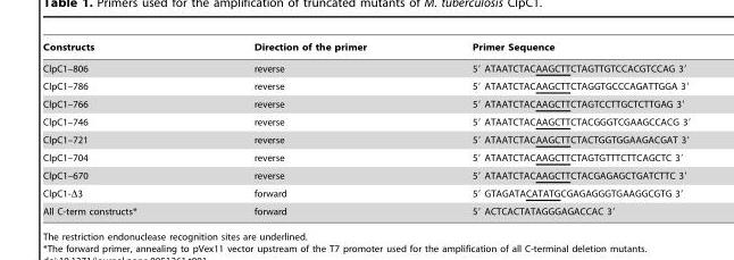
<table><thead><tr><td>Constructs</td><td>Direction of the primer</td><td>Primer Sequence</td></tr></thead><tbody><tr><td>ClpC1–806</td><td>reverse</td><td>5′ ATAATCTACAAGCTTCTAGTTGTCCACGTCCAG 3′</td></tr><tr><td>ClpC1–786</td><td>reverse</td><td>5′ ATAATCTACAAGCTTCTAGGTGCCCAGATTGGA 3′</td></tr><tr><td>ClpC1–766</td><td>reverse</td><td>5′ ATAATCTACAAGCTTCTAGTCCTTGCTCTTGAG 3′</td></tr><tr><td>ClpC1–746</td><td>reverse</td><td>5′ ATAATCTACAAGCTTCTACGGGTCGAAGCCACG 3′</td></tr><tr><td>ClpC1–721</td><td>reverse</td><td>5′ ATAATCTACAAGCTTCTACTGGTGGAAGACGAT 3′</td></tr><tr><td>ClpC1–704</td><td>reverse</td><td>5′ ATAATCTACAAGCTTCTAGTGTTTCTTCAGCTC 3′</td></tr><tr><td>ClpC1–670</td><td>reverse</td><td>5′ ATAATCTACAAGCTTCTACGAGAGCTGATCTTC 3′</td></tr><tr><td>ClpC1-Δ3</td><td>forward</td><td>5′ GTAGATACATATGCGAGAGGGTGAAGGCGTG 3′</td></tr><tr><td>All C-term constructs*</td><td>forward</td><td>5′ ACTCACTATAGGGAGACCAC 3′</td></tr></tbody></table>